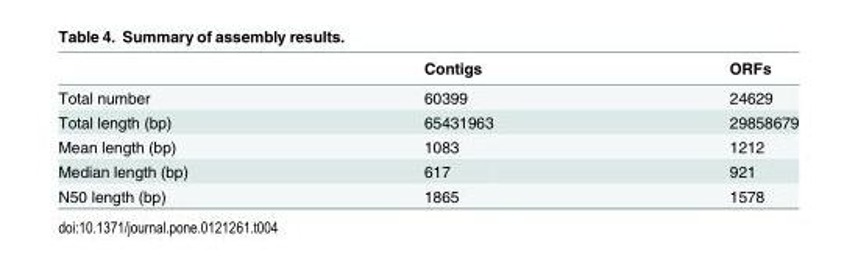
<table><thead><tr><td></td><td>Contigs</td><td>ORFs</td></tr></thead><tbody><tr><td>Total number</td><td>60399</td><td>24629</td></tr><tr><td>Total length (bp)</td><td>65431963</td><td>29858679</td></tr><tr><td>Mean length (bp)</td><td>1083</td><td>1212</td></tr><tr><td>Median length (bp)</td><td>617</td><td>921</td></tr><tr><td>N50 length (bp)</td><td>1865</td><td>1578</td></tr></tbody></table>